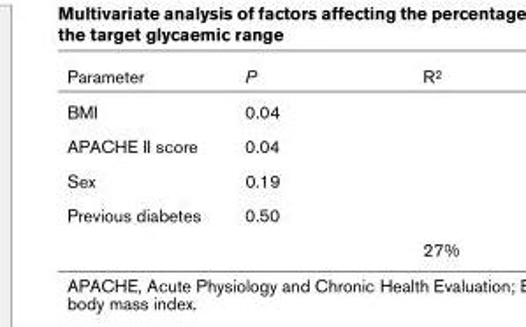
<table><thead><tr><td>Parameter</td><td>P</td><td>R<sup>2</sup></td></tr></thead><tbody><tr><td>BMI</td><td>0.04</td><td></td></tr><tr><td>APACHE II score</td><td>0.04</td><td></td></tr><tr><td>Sex</td><td>0.19</td><td></td></tr><tr><td rowspan="2">Previous diabetes</td><td>0.50</td><td></td></tr><tr><td></td><td>27%</td></tr></tbody></table>